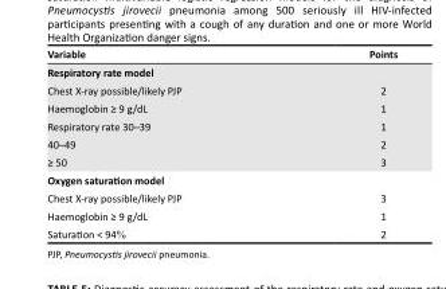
<table><thead><tr><td>Variable</td><td>Points</td></tr></thead><tbody><tr><td colspan="2">Respiratory rate model</td></tr><tr><td>Chest X-ray possible/likely PJP</td><td>2</td></tr><tr><td>Haemoglobin ≥ 9 g/dL</td><td>1</td></tr><tr><td>Respiratory rate 30–39</td><td>1</td></tr><tr><td>40–49</td><td>2</td></tr><tr><td>≥ 50</td><td>3</td></tr><tr><td colspan="2">Oxygen saturation model</td></tr><tr><td>Chest X-ray possible/likely PJP</td><td>3</td></tr><tr><td>Haemoglobin ≥ 9 g/dL</td><td>1</td></tr><tr><td>Saturation &lt; 94%</td><td>2</td></tr></tbody></table>